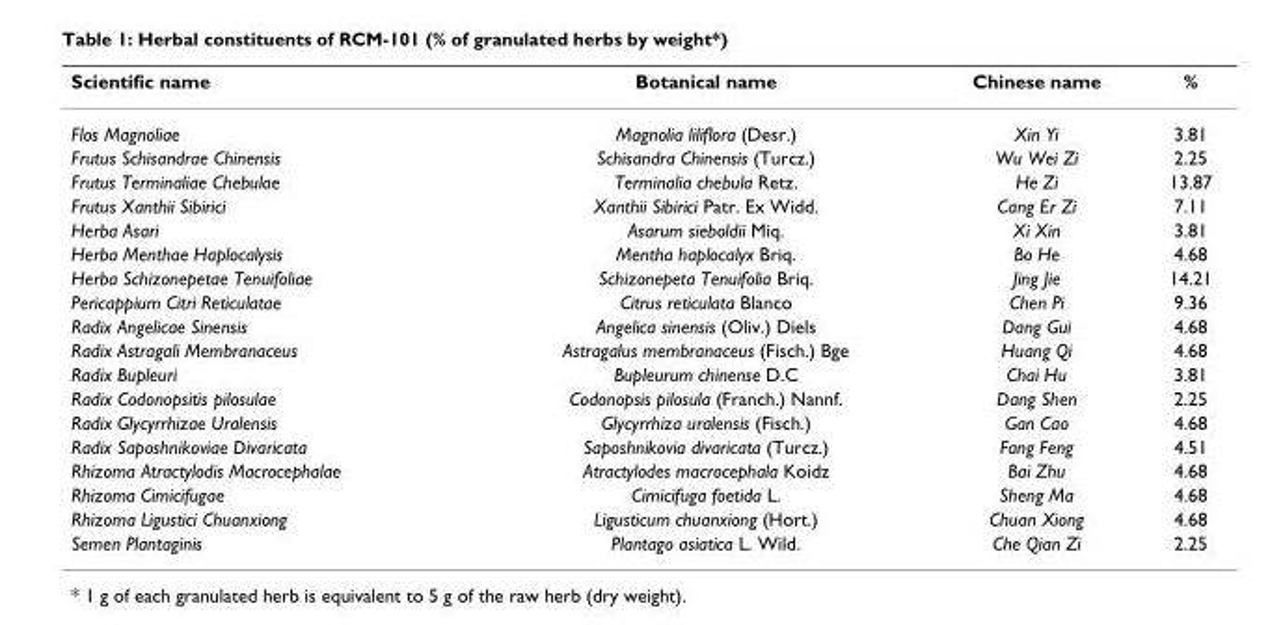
<table><thead><tr><td>Scientific name</td><td>Botanical name</td><td>Chinese name</td><td>%</td></tr></thead><tbody><tr><td>Flos Magnoliae</td><td>Magnolia liliflora (Desr.)</td><td>Xin Yi</td><td>3.81</td></tr><tr><td>Frutus Schisandrae Chinensis</td><td>Schisandra Chinensis (Turcz.)</td><td>Wu Wei Zi</td><td>2.25</td></tr><tr><td>Frutus Terminaliae Chebulae</td><td>Terminalia chebula Retz.</td><td>He Zi</td><td>13.87</td></tr><tr><td>Frutus Xanthii Sibirici</td><td>Xanthii Sibirici Patr. Ex Widd.</td><td>Cang Er Zi</td><td>7.11</td></tr><tr><td>Herba Asari</td><td>Asarum sieboldii Miq.</td><td>Xi Xin</td><td>3.81</td></tr><tr><td>Herba Menthae Haplocalysis</td><td>Mentha haplocalyx Briq.</td><td>Bo He</td><td>4.68</td></tr><tr><td>Herba Schizonepetae Tenuifoliae</td><td>Schizonepeta Tenuifolia Briq.</td><td>Jing Jie</td><td>14.21</td></tr><tr><td>Pericappium Citri Reticulatae</td><td>Citrus reticulata Blanco</td><td>Chen Pi</td><td>9.36</td></tr><tr><td>Radix Angelicae Sinensis</td><td>Angelica sinensis (Oliv.) Diels</td><td>Dang Gui</td><td>4.68</td></tr><tr><td>Radix Astragali Membranaceus</td><td>Astragalus membranaceus (Fisch.) Bge</td><td>Huang Qi</td><td>4.68</td></tr><tr><td>Radix Bupleuri</td><td>Bupleurum chinense D.C</td><td>Chai Hu</td><td>3.81</td></tr><tr><td>Radix Codonopsitis pilosulae</td><td>Codonopsis pilosula (Franch.) Nannf.</td><td>Dang Shen</td><td>2.25</td></tr><tr><td>Radix Glycyrrhizae Uralensis</td><td>Glycyrrhiza uralensis (Fisch.)</td><td>Gan Cao</td><td>4.68</td></tr><tr><td>Radix Saposhnikoviae Divaricata</td><td>Saposhnikovia divaricata (Turcz.)</td><td>Fang Feng</td><td>4.51</td></tr><tr><td>Rhizoma Atractylodis Macrocephalae</td><td>Atractylodes macrocephala Koidz</td><td>Bai Zhu</td><td>4.68</td></tr><tr><td>Rhizoma Cimicifugae</td><td>Cimicifuga foetida L.</td><td>Sheng Ma</td><td>4.68</td></tr><tr><td>Rhizoma Ligustici Chuanxiong</td><td>Ligusticum chuanxiong (Hort.)</td><td>Chuan Xiong</td><td>4.68</td></tr><tr><td>Semen Plantaginis</td><td>Plantago asiatica L. Wild.</td><td>Che Qian Zi</td><td>2.25</td></tr></tbody></table>